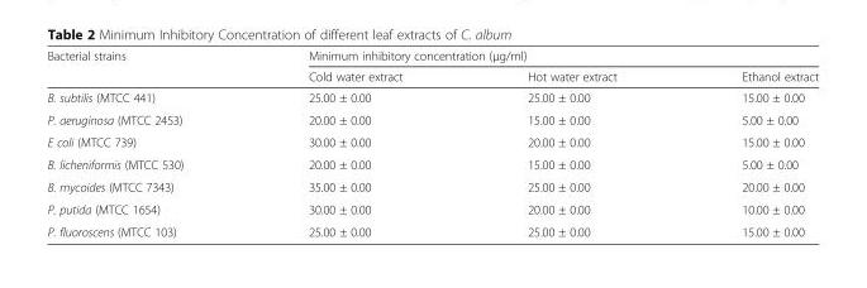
<table><thead><tr><td rowspan="2">Bacterial strains</td><td colspan="3">Minimum inhibitory concentration (μg/ml)</td></tr><tr><td>Cold water extract</td><td>Hot water extract</td><td>Ethanol extract</td></tr></thead><tbody><tr><td>B. subtilis (MTCC 441)</td><td>25.00 ± 0.00</td><td>25.00 ± 0.00</td><td>15.00 ± 0.00</td></tr><tr><td>P. aeruginosa (MTCC 2453)</td><td>20.00 ± 0.00</td><td>15.00 ± 0.00</td><td>5.00 ± 0.00</td></tr><tr><td>E coli (MTCC 739)</td><td>30.00 ± 0.00</td><td>20.00 ± 0.00</td><td>15.00 ± 0.00</td></tr><tr><td>B. licheniformis (MTCC 530)</td><td>20.00 ± 0.00</td><td>15.00 ± 0.00</td><td>5.00 ± 0.00</td></tr><tr><td>B. mycoides (MTCC 7343)</td><td>35.00 ± 0.00</td><td>25.00 ± 0.00</td><td>20.00 ± 0.00</td></tr><tr><td>P. putida (MTCC 1654)</td><td>30.00 ± 0.00</td><td>20.00 ± 0.00</td><td>10.00 ± 0.00</td></tr><tr><td>P. fluoroscens (MTCC 103)</td><td>25.00 ± 0.00</td><td>25.00 ± 0.00</td><td>15.00 ± 0.00</td></tr></tbody></table>